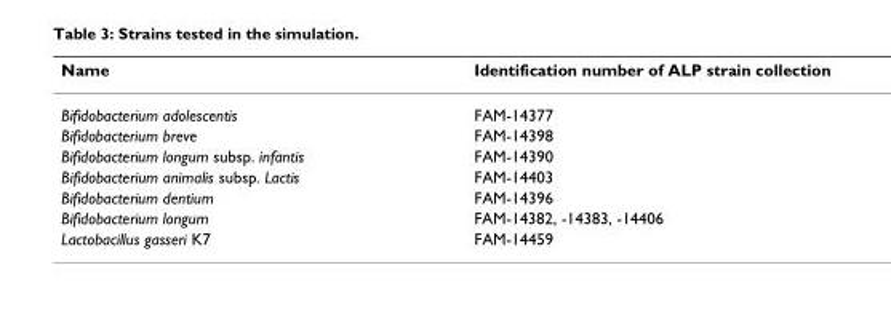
<table><thead><tr><td>Name</td><td>Identification number of ALP strain collection</td></tr></thead><tbody><tr><td>Bifidobacterium adolescentis</td><td>FAM-14377</td></tr><tr><td>Bifidobacterium breve</td><td>FAM-14398</td></tr><tr><td>Bifidobacterium longum subsp. infantis</td><td>FAM-14390</td></tr><tr><td>Bifidobacterium animalis subsp. Lactis</td><td>FAM-14403</td></tr><tr><td>Bifidobacterium dentium</td><td>FAM-14396</td></tr><tr><td>Bifidobacterium longum</td><td>FAM-14382, -14383, -14406</td></tr><tr><td>Lactobacillus gasseri K7</td><td>FAM-14459</td></tr></tbody></table>